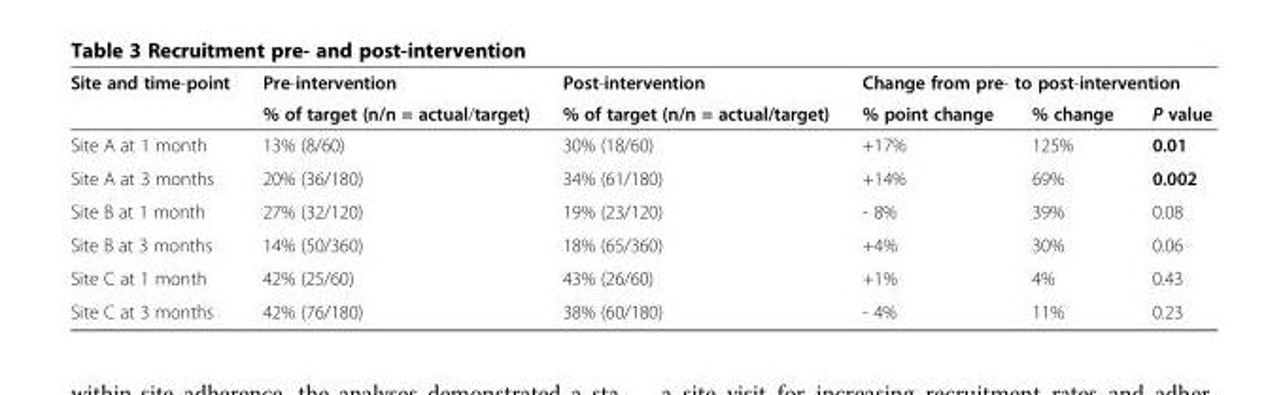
<table><thead><tr><td rowspan="2">Site and time-point</td><td rowspan="2">Pre-intervention % of target (n/n = actual/target)</td><td rowspan="2">Post-intervention % of target (n/n = actual/target)</td><td colspan="3">Change from pre- to post-intervention</td></tr><tr><td>% point change</td><td>% change</td><td>P value</td></tr></thead><tbody><tr><td>Site A at 1 month</td><td>13% (8/60)</td><td>30% (18/60)</td><td>+17%</td><td>125%</td><td>0.01</td></tr><tr><td>Site A at 3 months</td><td>20% (36/180)</td><td>34% (61/180)</td><td>+14%</td><td>69%</td><td>0.002</td></tr><tr><td>Site B at 1 month</td><td>27% (32/120)</td><td>19% (23/120)</td><td>- 8%</td><td>39%</td><td>0.08</td></tr><tr><td>Site B at 3 months</td><td>14% (50/360)</td><td>18% (65/360)</td><td>+4%</td><td>30%</td><td>0.06</td></tr><tr><td>Site C at 1 month</td><td>42% (25/60)</td><td>43% (26/60)</td><td>+1%</td><td>4%</td><td>0.43</td></tr><tr><td>Site C at 3 months</td><td>42% (76/180)</td><td>38% (60/180)</td><td>- 4%</td><td>11%</td><td>0.23</td></tr></tbody></table>